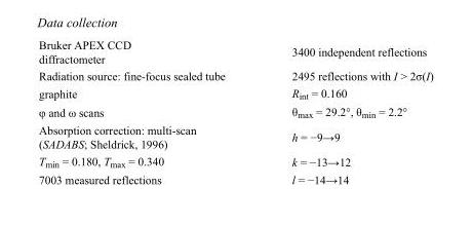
<table><tbody><tr><td>Bruker APEX CCD diffractometer</td><td>3400 independent reflections</td></tr><tr><td>Radiation source: fine-focus sealed tube</td><td>2495 reflections with I &gt; 2σ(I)</td></tr><tr><td>graphite</td><td>R<sub>int</sub> = 0.160</td></tr><tr><td>φ and ω scans</td><td>θ<sub>max</sub> = 29.2°, θ<sub>min</sub> = 2.2°</td></tr><tr><td>Absorption correction: multi-scan (SADABS; Sheldrick, 1996)</td><td>h = −9→9</td></tr><tr><td>T<sub>min</sub> = 0.180, T<sub>max</sub> = 0.340</td><td>k = −13→12</td></tr><tr><td>7003 measured reflections</td><td>l = −14→14</td></tr></tbody></table>